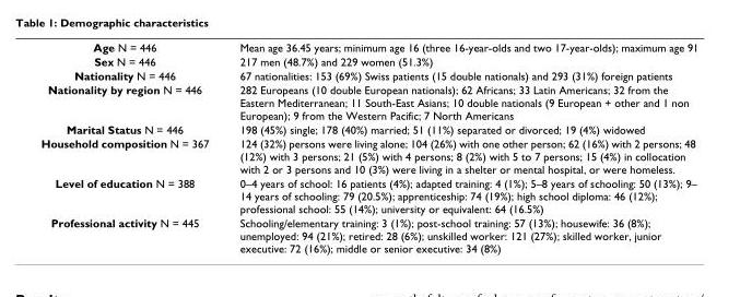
<table><tbody><tr><td>Age N = 446</td><td>Mean age 36.45 years; minimum age 16 (three 16-year-olds and two 17-year-olds); maximum age 91</td></tr><tr><td>Sex N = 446</td><td>217 men (48.7%) and 229 women (51.3%)</td></tr><tr><td>Nationality N = 446</td><td>67 nationalities: 153 (69%) Swiss patients (15 double nationals) and 293 (31%) foreign patients</td></tr><tr><td>Nationality by region N = 446</td><td>282 Europeans (10 double European nationals); 62 Africans; 33 Latin Americans; 32 from the Eastern Mediterranean; 11 South-East Asians; 10 double nationals (9 European + other and 1 non European); 9 from the Western Pacific; 7 North Americans</td></tr><tr><td>Marital Status N = 446</td><td>198 (45%) single; 178 (40%) married; 51 (11%) separated or divorced; 19 (4%) widowed</td></tr><tr><td>Household composition N = 367</td><td>124 (32%) persons were living alone; 104 (26%) with one other person; 62 (16%) with 2 persons; 48 (12%) with 3 persons; 21 (5%) with 4 persons; 8 (2%) with 5 to 7 persons; 15 (4%) in collocation with 2 or 3 persons and 10 (3%) were living in a shelter or mental hospital, or were homeless.</td></tr><tr><td>Level of education N = 388</td><td>0–4 years of school: 16 patients (4%); adapted training: 4 (1%); 5–8 years of schooling: 50 (13%); 9– 14 years of schooling: 79 (20.5%); apprenticeship: 74 (19%); high school diploma: 46 (12%); professional school: 55 (14%); university or equivalent: 64 (16.5%)</td></tr><tr><td>Professional activity N = 445</td><td>Schooling/elementary training: 3 (1%); post-school training: 57 (13%); housewife: 36 (8%); unemployed: 94 (21%); retired: 28 (6%); unskilled worker: 121 (27%); skilled worker, junior executive: 72 (16%); middle or senior executive: 34 (8%)</td></tr></tbody></table>